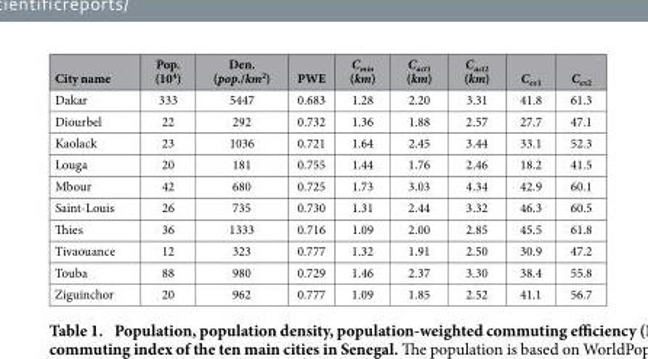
<table><thead><tr><td>City name</td><td>Pop. (10<sup>4</sup>)</td><td>Den. (pop./km<sup>2</sup>)</td><td>PWE</td><td>C<sub>min</sub> (km)</td><td>C<sub>act1</sub> (km)</td><td>C<sub>act2</sub> (km)</td><td>C<sub>ex1</sub></td><td>C<sub>ex2</sub></td></tr></thead><tbody><tr><td>Dakar</td><td>333</td><td>5447</td><td>0.683</td><td>1.28</td><td>2.20</td><td>3.31</td><td>41.8</td><td>61.3</td></tr><tr><td>Diourbel</td><td>22</td><td>292</td><td>0.732</td><td>1.36</td><td>1.88</td><td>2.57</td><td>27.7</td><td>47.1</td></tr><tr><td>Kaolack</td><td>23</td><td>1036</td><td>0.721</td><td>1.64</td><td>2.45</td><td>3.44</td><td>33.1</td><td>52.3</td></tr><tr><td>Louga</td><td>20</td><td>181</td><td>0.755</td><td>1.44</td><td>1.76</td><td>2.46</td><td>18.2</td><td>41.5</td></tr><tr><td>Mbour</td><td>42</td><td>680</td><td>0.725</td><td>1.73</td><td>3.03</td><td>4.34</td><td>42.9</td><td>60.1</td></tr><tr><td>Saint-Louis</td><td>26</td><td>735</td><td>0.730</td><td>1.31</td><td>2.44</td><td>3.32</td><td>46.3</td><td>60.5</td></tr><tr><td>Thies</td><td>36</td><td>1333</td><td>0.716</td><td>1.09</td><td>2.00</td><td>2.85</td><td>45.5</td><td>61.8</td></tr><tr><td>Tivaouance</td><td>12</td><td>323</td><td>0.777</td><td>1.32</td><td>1.91</td><td>2.50</td><td>30.9</td><td>47.2</td></tr><tr><td>Touba</td><td>88</td><td>980</td><td>0.729</td><td>1.46</td><td>2.37</td><td>3.30</td><td>38.4</td><td>55.8</td></tr><tr><td>Ziguinchor</td><td>20</td><td>962</td><td>0.777</td><td>1.09</td><td>1.85</td><td>2.52</td><td>41.1</td><td>56.7</td></tr></tbody></table>